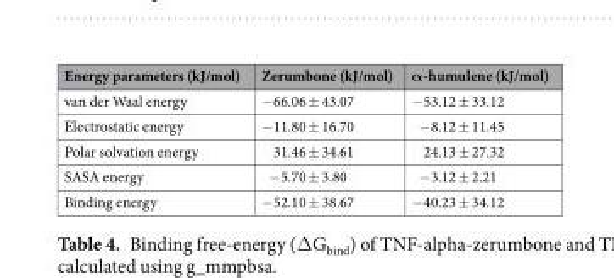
<table><thead><tr><td>Energy parameters (kJ/mol)</td><td>Zerumbone (kJ/mol)</td><td>α-humulene (kJ/mol)</td></tr></thead><tbody><tr><td>van der Waal energy</td><td>−66.06 ± 43.07</td><td>−53.12 ± 33.12</td></tr><tr><td>Electrostatic energy</td><td>−11.80 ± 16.70</td><td>−8.12 ± 11.45</td></tr><tr><td>Polar solvation energy</td><td>31.46 ± 34.61</td><td>24.13 ± 27.32</td></tr><tr><td>SASA energy</td><td>−5.70 ± 3.80</td><td>−3.12 ± 2.21</td></tr><tr><td>Binding energy</td><td>−52.10 ± 38.67</td><td>−40.23 ± 34.12</td></tr></tbody></table>